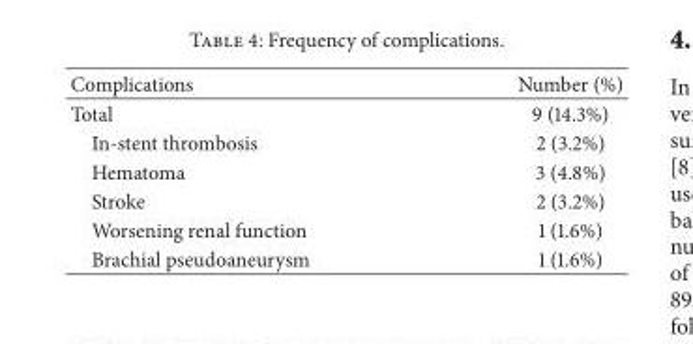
<table><thead><tr><td>Complications</td><td>Number (%)</td></tr></thead><tbody><tr><td>Total</td><td>9 (14.3%)</td></tr><tr><td>In-stent thrombosis</td><td>2 (3.2%)</td></tr><tr><td>Hematoma</td><td>3 (4.8%)</td></tr><tr><td>Stroke</td><td>2 (3.2%)</td></tr><tr><td>Worsening renal function</td><td>1 (1.6%)</td></tr><tr><td>Brachial pseudoaneurysm</td><td>1 (1.6%)</td></tr></tbody></table>